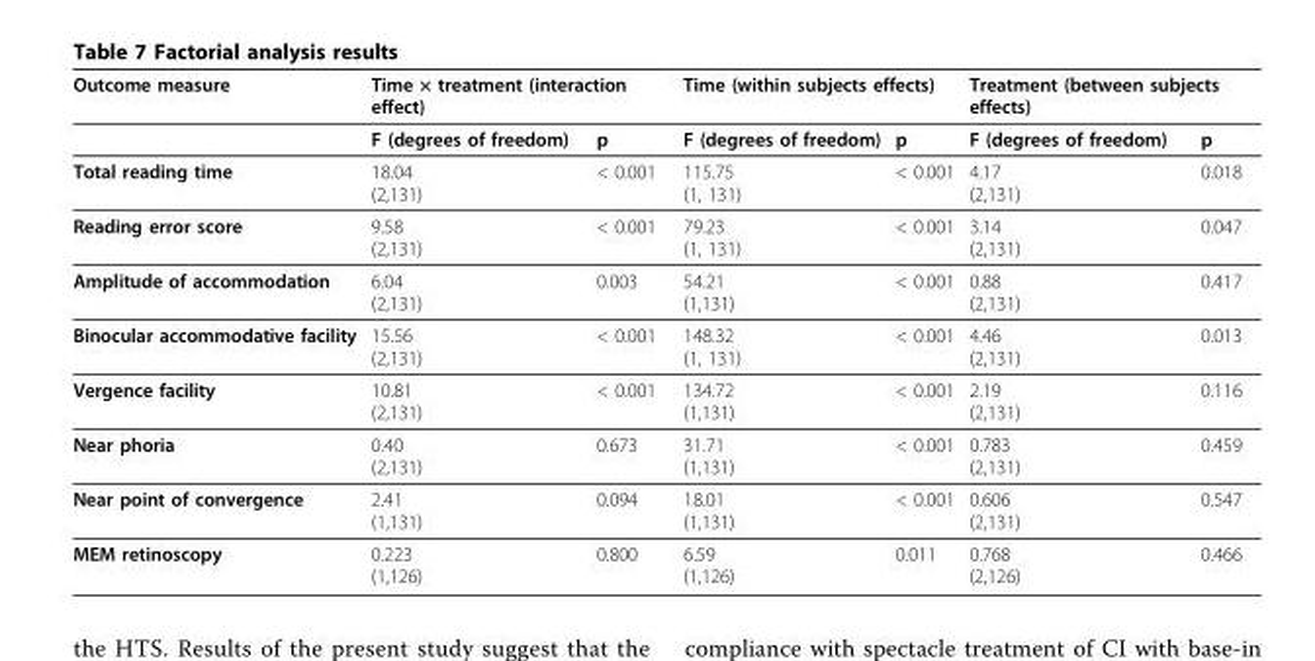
<table><thead><tr><td rowspan="2">Outcome measure</td><td colspan="2">Time × treatment (interaction effect)</td><td colspan="2">Time (within subjects effects)</td><td colspan="2">Treatment (between subjects effects)</td></tr><tr><td>F (degrees of freedom)</td><td>p</td><td>F (degrees of freedom)</td><td>p</td><td>F (degrees of freedom)</td><td>p</td></tr></thead><tbody><tr><td>Total reading time</td><td>18.04 (2,131)</td><td>&lt; 0.001</td><td>115.75 (1, 131)</td><td>&lt; 0.001</td><td>4.17 (2,131)</td><td>0.018</td></tr><tr><td>Reading error score</td><td>9.58 (2,131)</td><td>&lt; 0.001</td><td>79.23 (1, 131)</td><td>&lt; 0.001</td><td>3.14 (2,131)</td><td>0.047</td></tr><tr><td>Amplitude of accommodation</td><td>6.04 (2,131)</td><td>0.003</td><td>54.21 (1,131)</td><td>&lt; 0.001</td><td>0.88 (2,131)</td><td>0.417</td></tr><tr><td>Binocular accommodative facility</td><td>15.56 (2,131)</td><td>&lt; 0.001</td><td>148.32 (1, 131)</td><td>&lt; 0.001</td><td>4.46 (2,131)</td><td>0.013</td></tr><tr><td>Vergence facility</td><td>10.81 (2,131)</td><td>&lt; 0.001</td><td>134.72 (1,131)</td><td>&lt; 0.001</td><td>2.19 (2,131)</td><td>0.116</td></tr><tr><td>Near phoria</td><td>0.40 (2,131)</td><td>0.673</td><td>31.71 (1,131)</td><td>&lt; 0.001</td><td>0.783 (2,131)</td><td>0.459</td></tr><tr><td>Near point of convergence</td><td>2.41 (1,131)</td><td>0.094</td><td>18.01 (1,131)</td><td>&lt; 0.001</td><td>0.606 (2,131)</td><td>0.547</td></tr><tr><td>MEM retinoscopy</td><td>0.223 (1,126)</td><td>0.800</td><td>6.59 (1,126)</td><td>0.011</td><td>0.768 (2,126)</td><td>0.466</td></tr></tbody></table>